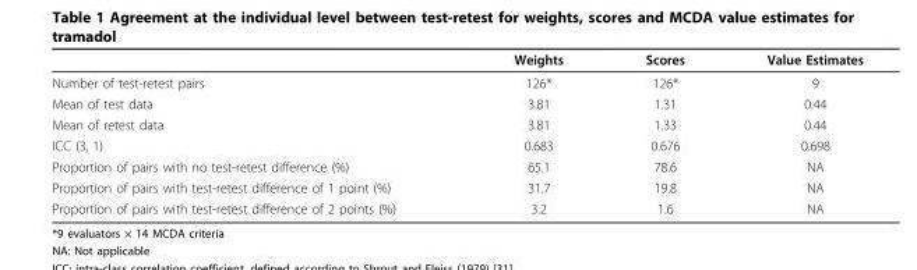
<table><thead><tr><td></td><td>Weights</td><td>Scores</td><td>Value Estimates</td></tr></thead><tbody><tr><td>Number of test-retest pairs</td><td>126*</td><td>126*</td><td>9</td></tr><tr><td>Mean of test data</td><td>3.81</td><td>1.31</td><td>0.44</td></tr><tr><td>Mean of retest data</td><td>3.81</td><td>1.33</td><td>0.44</td></tr><tr><td>ICC (3, 1)</td><td>0.683</td><td>0.676</td><td>0.698</td></tr><tr><td>Proportion of pairs with no test-retest difference (%)</td><td>65.1</td><td>78.6</td><td>NA</td></tr><tr><td>Proportion of pairs with test-retest difference of 1 point (%)</td><td>31.7</td><td>19.8</td><td>NA</td></tr><tr><td>Proportion of pairs with test-retest difference of 2 points (%)</td><td>3.2</td><td>1.6</td><td>NA</td></tr></tbody></table>